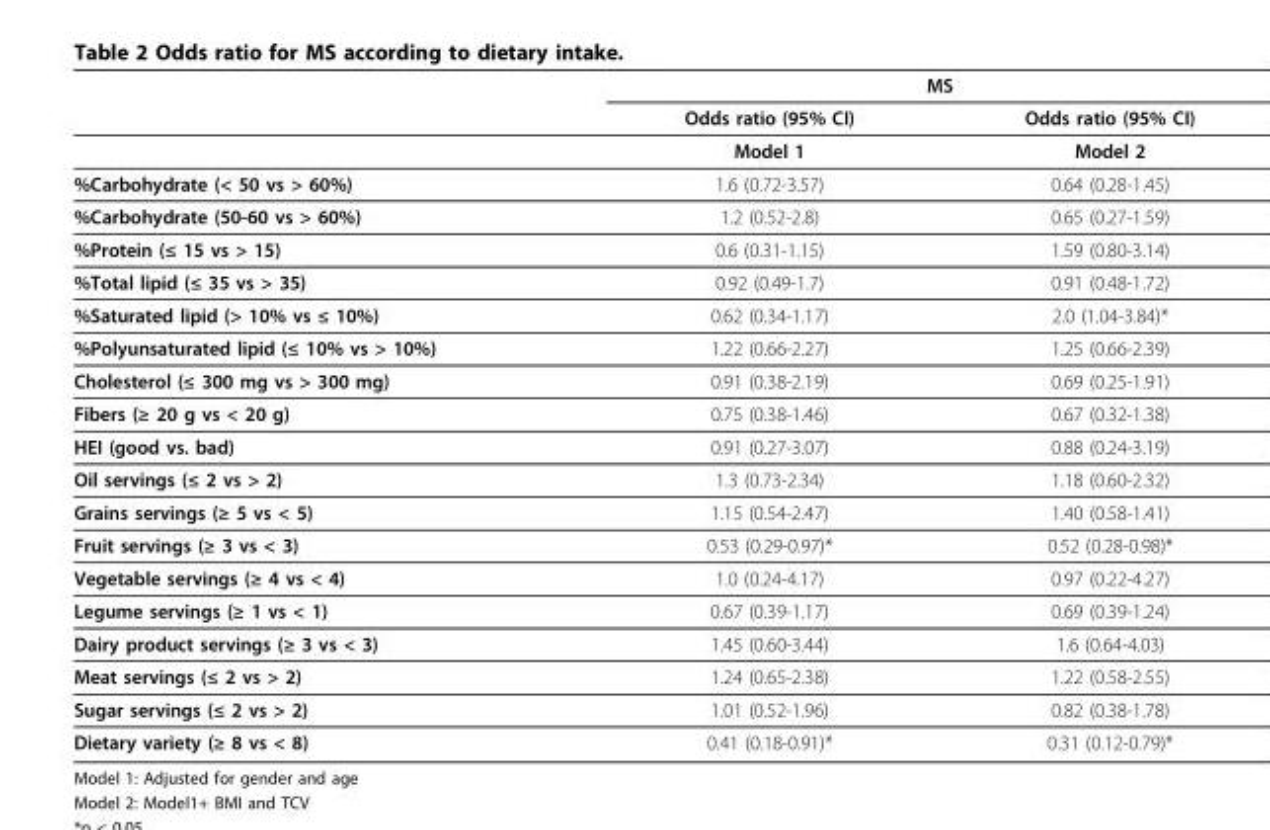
<table><thead><tr><td rowspan="2"></td><td colspan="2">MS</td></tr><tr><td>Odds ratio (95% CI)</td><td>Odds ratio (95% CI)</td></tr></thead><tbody><tr><td></td><td>Model 1</td><td>Model 2</td></tr><tr><td>%Carbohydrate (&lt; 50 vs &gt; 60%)</td><td>1.6 (0.72-3.57)</td><td>0.64 (0.28-1.45)</td></tr><tr><td>%Carbohydrate (50-60 vs &gt; 60%)</td><td>1.2 (0.52-2.8)</td><td>0.65 (0.27-1.59)</td></tr><tr><td>%Protein (≤ 15 vs &gt; 15)</td><td>0.6 (0.31-1.15)</td><td>1.59 (0.80-3.14)</td></tr><tr><td>%Total lipid (≤ 35 vs &gt; 35)</td><td>0.92 (0.49-1.7)</td><td>0.91 (0.48-1.72)</td></tr><tr><td>%Saturated lipid (&gt; 10% vs ≤ 10%)</td><td>0.62 (0.34-1.17)</td><td>2.0 (1.04-3.84)*</td></tr><tr><td>%Polyunsaturated lipid (≤ 10% vs &gt; 10%)</td><td>1.22 (0.66-2.27)</td><td>1.25 (0.66-2.39)</td></tr><tr><td>Cholesterol (≤ 300 mg vs &gt; 300 mg)</td><td>0.91 (0.38-2.19)</td><td>0.69 (0.25-1.91)</td></tr><tr><td>Fibers (≥ 20 g vs &lt; 20 g)</td><td>0.75 (0.38-1.46)</td><td>0.67 (0.32-1.38)</td></tr><tr><td>HEI (good vs. bad)</td><td>0.91 (0.27-3.07)</td><td>0.88 (0.24-3.19)</td></tr><tr><td>Oil servings (≤ 2 vs &gt; 2)</td><td>1.3 (0.73-2.34)</td><td>1.18 (0.60-2.32)</td></tr><tr><td>Grains servings (≥ 5 vs &lt; 5)</td><td>1.15 (0.54-2.47)</td><td>1.40 (0.58-1.41)</td></tr><tr><td>Fruit servings (≥ 3 vs &lt; 3)</td><td>0.53 (0.29-0.97)*</td><td>0.52 (0.28-0.98)*</td></tr><tr><td>Vegetable servings (≥ 4 vs &lt; 4)</td><td>1.0 (0.24-4.17)</td><td>0.97 (0.22-4.27)</td></tr><tr><td>Legume servings (≥ 1 vs &lt; 1)</td><td>0.67 (0.39-1.17)</td><td>0.69 (0.39-1.24)</td></tr><tr><td>Dairy product servings (≥ 3 vs &lt; 3)</td><td>1.45 (0.60-3.44)</td><td>1.6 (0.64-4.03)</td></tr><tr><td>Meat servings (≤ 2 vs &gt; 2)</td><td>1.24 (0.65-2.38)</td><td>1.22 (0.58-2.55)</td></tr><tr><td>Sugar servings (≤ 2 vs &gt; 2)</td><td>1.01 (0.52-1.96)</td><td>0.82 (0.38-1.78)</td></tr><tr><td>Dietary variety (≥ 8 vs &lt; 8)</td><td>0.41 (0.18-0.91)*</td><td>0.31 (0.12-0.79)*</td></tr></tbody></table>